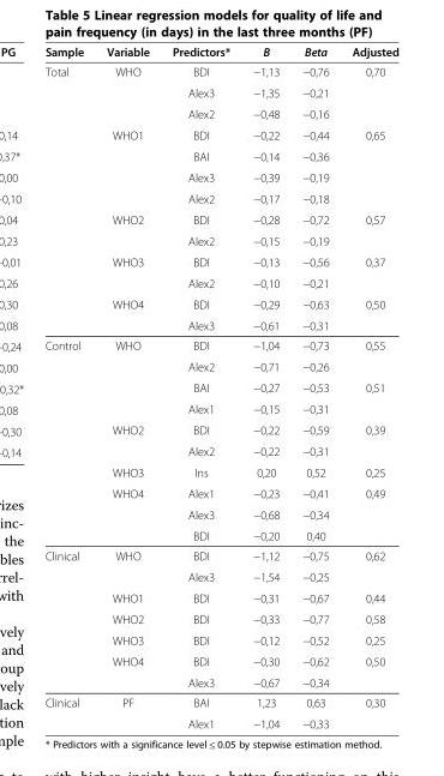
<table><thead><tr><td>Sample</td><td>Variable</td><td>Predictors*</td><td>B</td><td>Beta</td><td>Adjusted</td></tr></thead><tbody><tr><td rowspan="13">Total</td><td>WHO</td><td>BDI</td><td>−1,13</td><td>−0,76</td><td>0,70</td></tr><tr><td></td><td>Alex3</td><td>−1,35</td><td>−0,21</td><td></td></tr><tr><td></td><td>Alex2</td><td>−0,48</td><td>−0,16</td><td></td></tr><tr><td>WHO1</td><td>BDI</td><td>−0,22</td><td>−0,44</td><td>0,65</td></tr><tr><td></td><td>BAI</td><td>−0,14</td><td>−0,36</td><td></td></tr><tr><td></td><td>Alex3</td><td>−0,39</td><td>−0,19</td><td></td></tr><tr><td></td><td>Alex2</td><td>−0,17</td><td>−0,18</td><td></td></tr><tr><td>WHO2</td><td>BDI</td><td>−0,28</td><td>−0,72</td><td>0,57</td></tr><tr><td></td><td>Alex2</td><td>−0,15</td><td>−0,19</td><td></td></tr><tr><td>WHO3</td><td>BDI</td><td>−0,13</td><td>−0,56</td><td>0,37</td></tr><tr><td></td><td>Alex2</td><td>−0,10</td><td>−0,21</td><td></td></tr><tr><td>WHO4</td><td>BDI</td><td>−0,29</td><td>−0,63</td><td>0,50</td></tr><tr><td></td><td>Alex3</td><td>−0,61</td><td>−0,31</td><td></td></tr><tr><td rowspan="10">Control</td><td>WHO</td><td>BDI</td><td>−1,04</td><td>−0,73</td><td>0,55</td></tr><tr><td></td><td>Alex2</td><td>−0,71</td><td>−0,26</td><td></td></tr><tr><td></td><td>BAI</td><td>−0,27</td><td>−0,53</td><td>0,51</td></tr><tr><td></td><td>Alex1</td><td>−0,15</td><td>−0,31</td><td></td></tr><tr><td>WHO2</td><td>BDI</td><td>−0,22</td><td>−0,59</td><td>0,39</td></tr><tr><td></td><td>Alex2</td><td>−0,22</td><td>−0,31</td><td></td></tr><tr><td>WHO3</td><td>Ins</td><td>0,20</td><td>0,52</td><td>0,25</td></tr><tr><td>WHO4</td><td>Alex1</td><td>−0,23</td><td>−0,41</td><td>0,49</td></tr><tr><td></td><td>Alex3</td><td>−0,68</td><td>−0,34</td><td></td></tr><tr><td></td><td>BDI</td><td>−0,20</td><td>0,40</td><td></td></tr><tr><td rowspan="7">Clinical</td><td>WHO</td><td>BDI</td><td>−1,12</td><td>−0,75</td><td>0,62</td></tr><tr><td></td><td>Alex3</td><td>−1,54</td><td>−0,25</td><td></td></tr><tr><td>WHO1</td><td>BDI</td><td>−0,31</td><td>−0,67</td><td>0,44</td></tr><tr><td>WHO2</td><td>BDI</td><td>−0,33</td><td>−0,77</td><td>0,58</td></tr><tr><td>WHO3</td><td>BDI</td><td>−0,12</td><td>−0,52</td><td>0,25</td></tr><tr><td>WHO4</td><td>BDI</td><td>−0,30</td><td>−0,62</td><td>0,50</td></tr><tr><td></td><td>Alex3</td><td>−0,67</td><td>−0,34</td><td></td></tr><tr><td rowspan="2">Clinical</td><td>PF</td><td>BAI</td><td>1,23</td><td>0,63</td><td>0,30</td></tr><tr><td></td><td>Alex1</td><td>−1,04</td><td>−0,33</td><td></td></tr></tbody></table>